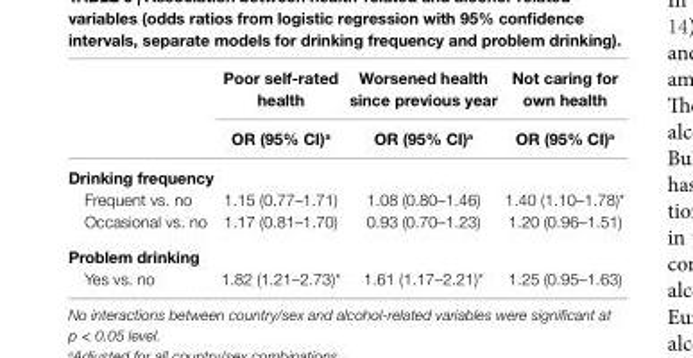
<table><thead><tr><td rowspan="2"></td><td rowspan="2">Poor self-rated health Or (95% ci)<sup>a</sup></td><td rowspan="2">Worsened health since previous year Or (95% ci)<sup>a</sup></td><td rowspan="2">not caring for own health Or (95% ci)<sup>a</sup></td></tr><tr></tr></thead><tbody><tr><td colspan="4">Drinking frequency</td></tr><tr><td>Frequent vs. no</td><td>1.15 (0.77–1.71)</td><td>1.08 (0.80–1.46)</td><td>1.40 (1.10–1.78)*</td></tr><tr><td>Occasional vs. no</td><td>1.17 (0.81–1.70)</td><td>0.93 (0.70–1.23)</td><td>1.20 (0.96–1.51)</td></tr><tr><td colspan="4">Problem drinking</td></tr><tr><td>Yes vs. no</td><td>1.82 (1.21–2.73)*</td><td>1.61 (1.17–2.21)*</td><td>1.25 (0.95–1.63)</td></tr></tbody></table>